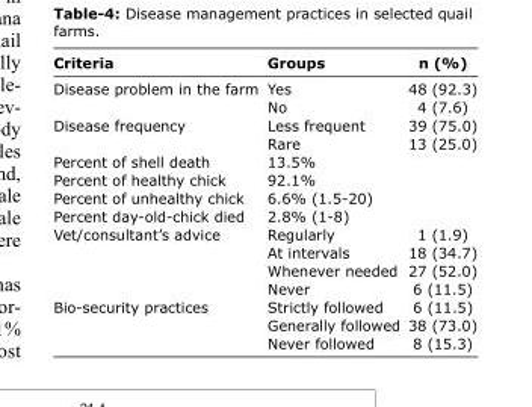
<table><thead><tr><td>Criteria</td><td>Groups</td><td>n (%)</td></tr></thead><tbody><tr><td rowspan="2">Disease problem in the farm</td><td>Yes</td><td>48 (92.3)</td></tr><tr><td>No</td><td>4 (7.6)</td></tr><tr><td rowspan="2">Disease frequency</td><td>Less frequent</td><td>39 (75.0)</td></tr><tr><td>Rare</td><td>13 (25.0)</td></tr><tr><td>Percent of shell death</td><td>13.5%</td><td></td></tr><tr><td>Percent of healthy chick</td><td>92.1%</td><td></td></tr><tr><td>Percent of unhealthy chick</td><td>6.6% (1.5-20)</td><td></td></tr><tr><td>Percent day-old-chick died</td><td>2.8% (1-8)</td><td></td></tr><tr><td rowspan="4">Vet/consultant’s advice</td><td>Regularly</td><td>1 (1.9)</td></tr><tr><td>At intervals</td><td>18 (34.7)</td></tr><tr><td>Whenever needed</td><td>27 (52.0)</td></tr><tr><td>Never</td><td>6 (11.5)</td></tr><tr><td rowspan="3">Bio-security practices</td><td>Strictly followed</td><td>6 (11.5)</td></tr><tr><td>Generally followed</td><td>38 (73.0)</td></tr><tr><td>Never followed</td><td>8 (15.3)</td></tr></tbody></table>